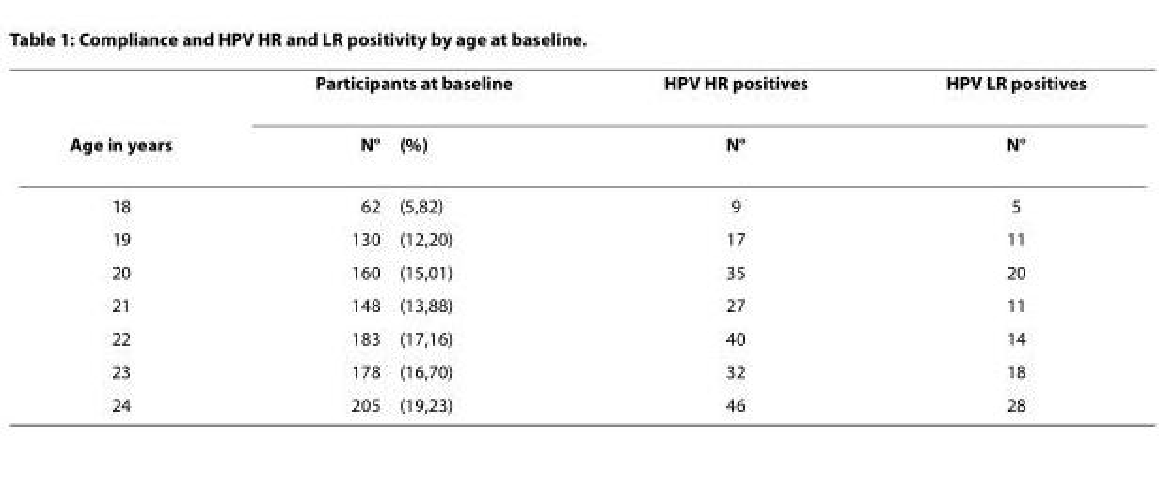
<table><thead><tr><td rowspan="2">Age in years</td><td colspan="2">Participants at baseline</td><td rowspan="2">HPV HR positives N°</td><td rowspan="2">HPV LR positives N°</td></tr><tr><td>N°</td><td>(%)</td></tr></thead><tbody><tr><td>18</td><td>62</td><td>(5,82)</td><td>9</td><td>5</td></tr><tr><td>19</td><td>130</td><td>(12,20)</td><td>17</td><td>11</td></tr><tr><td>20</td><td>160</td><td>(15,01)</td><td>35</td><td>20</td></tr><tr><td>21</td><td>148</td><td>(13,88)</td><td>27</td><td>11</td></tr><tr><td>22</td><td>183</td><td>(17,16)</td><td>40</td><td>14</td></tr><tr><td>23</td><td>178</td><td>(16,70)</td><td>32</td><td>18</td></tr><tr><td>24</td><td>205</td><td>(19,23)</td><td>46</td><td>28</td></tr></tbody></table>